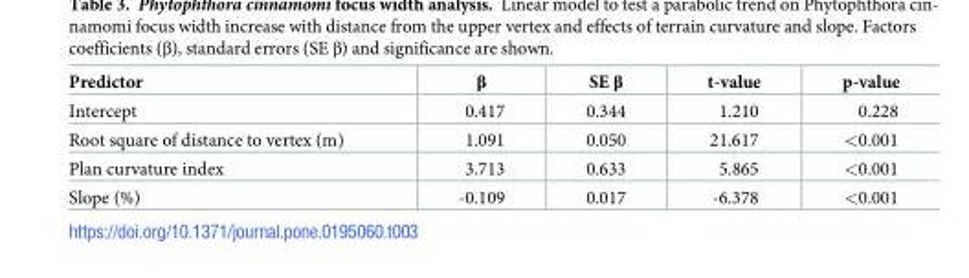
<table><thead><tr><td>Predictor</td><td>β</td><td>SE β</td><td>t-value</td><td>p-value</td></tr></thead><tbody><tr><td>Intercept</td><td>0.417</td><td>0.344</td><td>1.210</td><td>0.228</td></tr><tr><td>Root square of distance to vertex (m)</td><td>1.091</td><td>0.050</td><td>21.617</td><td>&lt;0.001</td></tr><tr><td>Plan curvature index</td><td>3.713</td><td>0.633</td><td>5.865</td><td>&lt;0.001</td></tr><tr><td>Slope (%)</td><td>-0.109</td><td>0.017</td><td>-6.378</td><td>&lt;0.001</td></tr></tbody></table>